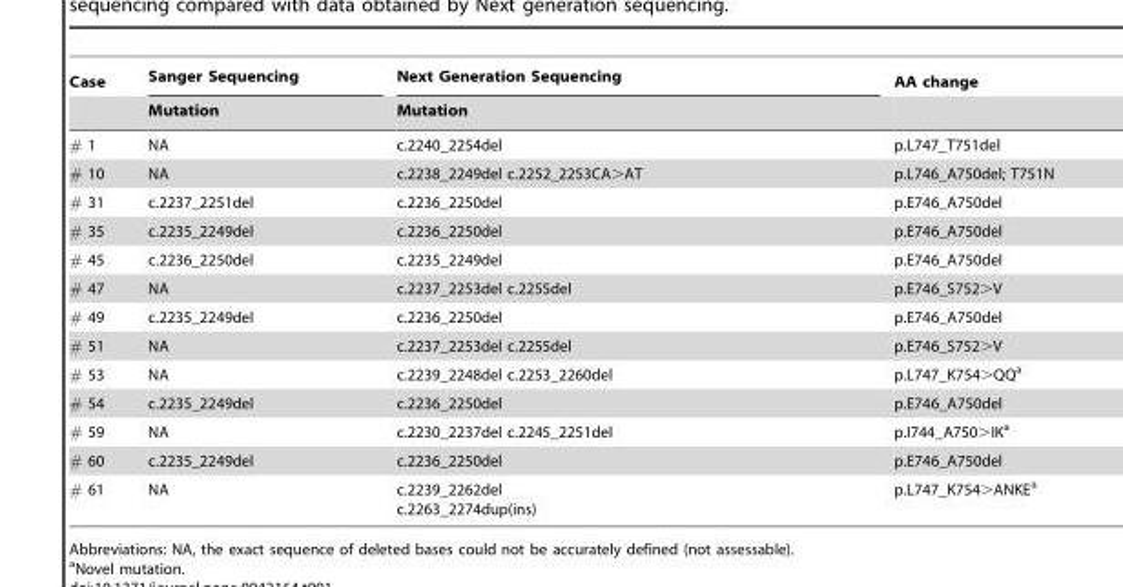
<table><thead><tr><td rowspan="2">Case</td><td rowspan="2">Sanger Sequencing Mutation</td><td rowspan="2">Next Generation Sequencing Mutation</td><td rowspan="2">AA change</td></tr><tr></tr></thead><tbody><tr><td># 1</td><td>NA</td><td>c.2240_2254del</td><td>p.L747_T751del</td></tr><tr><td># 10</td><td>NA</td><td>c.2238_2249del c.2252_2253CA&gt;AT</td><td>p.L746_A750del; T751N</td></tr><tr><td># 31</td><td>c.2237_2251del</td><td>c.2236_2250del</td><td>p.E746_A750del</td></tr><tr><td># 35</td><td>c.2235_2249del</td><td>c.2236_2250del</td><td>p.E746_A750del</td></tr><tr><td># 45</td><td>c.2236_2250del</td><td>c.2235_2249del</td><td>p.E746_A750del</td></tr><tr><td># 47</td><td>NA</td><td>c.2237_2253del c.2255del</td><td>p.E746_S752&gt;V</td></tr><tr><td># 49</td><td>c.2235_2249del</td><td>c.2236_2250del</td><td>p.E746_A750del</td></tr><tr><td># 51</td><td>NA</td><td>c.2237_2253del c.2255del</td><td>p.E746_S752&gt;V</td></tr><tr><td># 53</td><td>NA</td><td>c.2239_2248del c.2253_2260del</td><td>p.L747_K754&gt;QQ<sup>a</sup></td></tr><tr><td># 54</td><td>c.2235_2249del</td><td>c.2236_2250del</td><td>p.E746_A750del</td></tr><tr><td># 59</td><td>NA</td><td>c.2230_2237del c.2245_2251del</td><td>p.I744_A750&gt;IK<sup>a</sup></td></tr><tr><td># 60</td><td>c.2235_2249del</td><td>c.2236_2250del</td><td>p.E746_A750del</td></tr><tr><td># 61</td><td>NA</td><td>c.2239_2262del c.2263_2274dup(ins)</td><td>p.L747_K754&gt;ANKE<sup>a</sup></td></tr></tbody></table>